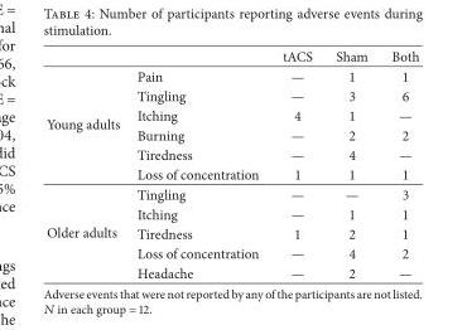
<table><thead><tr><td></td><td></td><td>tACS</td><td>Sham</td><td>Both</td></tr></thead><tbody><tr><td rowspan="6">Young adults</td><td>Pain</td><td>—</td><td>1</td><td>1</td></tr><tr><td>Tingling</td><td>—</td><td>3</td><td>6</td></tr><tr><td>Itching</td><td>4</td><td>1</td><td>—</td></tr><tr><td>Burning</td><td>—</td><td>2</td><td>2</td></tr><tr><td>Tiredness</td><td>—</td><td>4</td><td>—</td></tr><tr><td>Loss of concentration</td><td>1</td><td>1</td><td>1</td></tr><tr><td rowspan="5">Older adults</td><td>Tingling</td><td>—</td><td>—</td><td>3</td></tr><tr><td>Itching</td><td>—</td><td>1</td><td>1</td></tr><tr><td>Tiredness</td><td>1</td><td>2</td><td>1</td></tr><tr><td>Loss of concentration</td><td>—</td><td>4</td><td>2</td></tr><tr><td>Headache</td><td>—</td><td>2</td><td>—</td></tr></tbody></table>